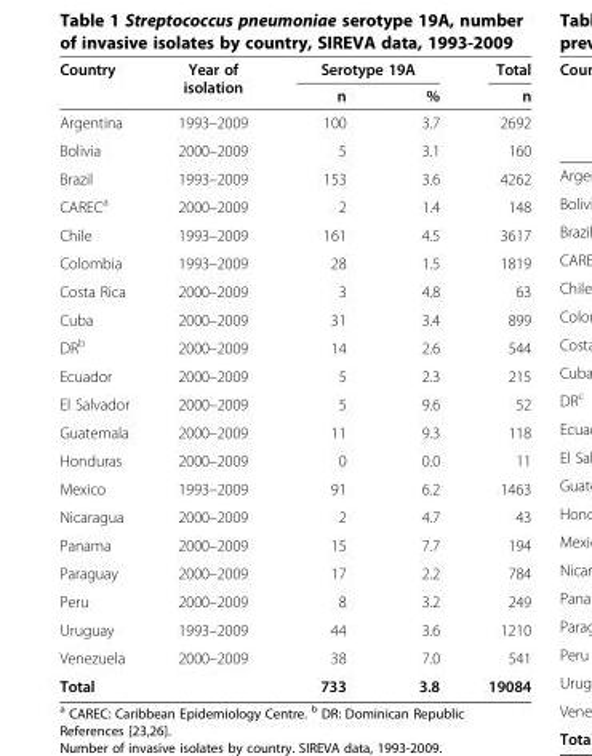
<table><thead><tr><td rowspan="2">Country</td><td rowspan="2">Year of isolation</td><td colspan="2">Serotype 19A</td><td rowspan="2">Total n</td></tr><tr><td>n</td><td>%</td></tr></thead><tbody><tr><td>Argentina</td><td>1993–2009</td><td>100</td><td>3.7</td><td>2692</td></tr><tr><td>Bolivia</td><td>2000–2009</td><td>5</td><td>3.1</td><td>160</td></tr><tr><td>Brazil</td><td>1993–2009</td><td>153</td><td>3.6</td><td>4262</td></tr><tr><td>CAREC<sup>a</sup></td><td>2000–2009</td><td>2</td><td>1.4</td><td>148</td></tr><tr><td>Chile</td><td>1993–2009</td><td>161</td><td>4.5</td><td>3617</td></tr><tr><td>Colombia</td><td>1993–2009</td><td>28</td><td>1.5</td><td>1819</td></tr><tr><td>Costa Rica</td><td>2000–2009</td><td>3</td><td>4.8</td><td>63</td></tr><tr><td>Cuba</td><td>2000–2009</td><td>31</td><td>3.4</td><td>899</td></tr><tr><td>DR<sup>b</sup></td><td>2000–2009</td><td>14</td><td>2.6</td><td>544</td></tr><tr><td>Ecuador</td><td>2000–2009</td><td>5</td><td>2.3</td><td>215</td></tr><tr><td>El Salvador</td><td>2000–2009</td><td>5</td><td>9.6</td><td>52</td></tr><tr><td>Guatemala</td><td>2000–2009</td><td>11</td><td>9.3</td><td>118</td></tr><tr><td>Honduras</td><td>2000–2009</td><td>0</td><td>0.0</td><td>11</td></tr><tr><td>Mexico</td><td>1993–2009</td><td>91</td><td>6.2</td><td>1463</td></tr><tr><td>Nicaragua</td><td>2000–2009</td><td>2</td><td>4.7</td><td>43</td></tr><tr><td>Panama</td><td>2000–2009</td><td>15</td><td>7.7</td><td>194</td></tr><tr><td>Paraguay</td><td>2000–2009</td><td>17</td><td>2.2</td><td>784</td></tr><tr><td>Peru</td><td>2000–2009</td><td>8</td><td>3.2</td><td>249</td></tr><tr><td>Uruguay</td><td>1993–2009</td><td>44</td><td>3.6</td><td>1210</td></tr><tr><td>Venezuela</td><td>2000–2009</td><td>38</td><td>7.0</td><td>541</td></tr><tr><td>Total</td><td></td><td>733</td><td>3.8</td><td>19084</td></tr></tbody></table>